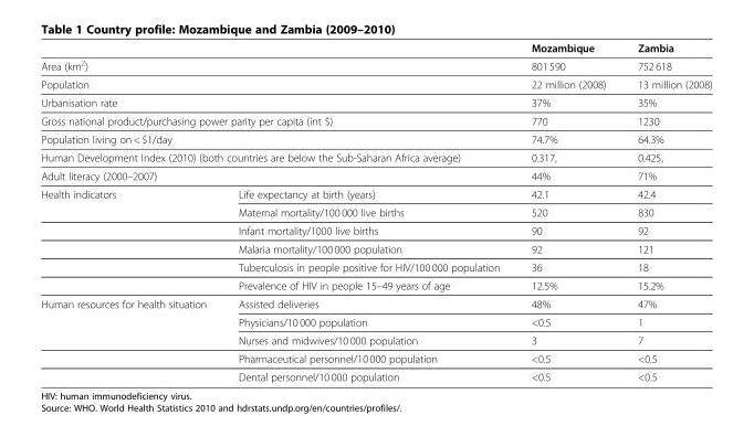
<table><thead><tr><td></td><td></td><td>Mozambique</td><td>Zambia</td></tr></thead><tbody><tr><td colspan="2">Area (km<sup>2</sup>)</td><td>801 590</td><td>752 618</td></tr><tr><td colspan="2">Population</td><td>22 million (2008)</td><td>13 million (2008)</td></tr><tr><td colspan="2">Urbanisation rate</td><td>37%</td><td>35%</td></tr><tr><td colspan="2">Gross national product/purchasing power parity per capita (int $)</td><td>770</td><td>1230</td></tr><tr><td colspan="2">Population living on &lt; $1/day</td><td>74.7%</td><td>64.3%</td></tr><tr><td colspan="2">Human Development Index (2010) (both countries are below the Sub-Saharan Africa average)</td><td>0.317,</td><td>0.425,</td></tr><tr><td colspan="2">Adult literacy (2000–2007)</td><td>44%</td><td>71%</td></tr><tr><td rowspan="6">Health indicators</td><td>Life expectancy at birth (years)</td><td>42.1</td><td>42.4</td></tr><tr><td>Maternal mortality/100 000 live births</td><td>520</td><td>830</td></tr><tr><td>Infant mortality/1000 live births</td><td>90</td><td>92</td></tr><tr><td>Malaria mortality/100 000 population</td><td>92</td><td>121</td></tr><tr><td>Tuberculosis in people positive for HIV/100 000 population</td><td>36</td><td>18</td></tr><tr><td>Prevalence of HIV in people 15–49 years of age</td><td>12.5%</td><td>15.2%</td></tr><tr><td rowspan="5">Human resources for health situation</td><td>Assisted deliveries</td><td>48%</td><td>47%</td></tr><tr><td>Physicians/10 000 population</td><td>&lt;0.5</td><td>1</td></tr><tr><td>Nurses and midwives/10 000 population</td><td>3</td><td>7</td></tr><tr><td>Pharmaceutical personnel/10 000 population</td><td>&lt;0.5</td><td>&lt;0.5</td></tr><tr><td>Dental personnel/10 000 population</td><td>&lt;0.5</td><td>&lt;0.5</td></tr></tbody></table>